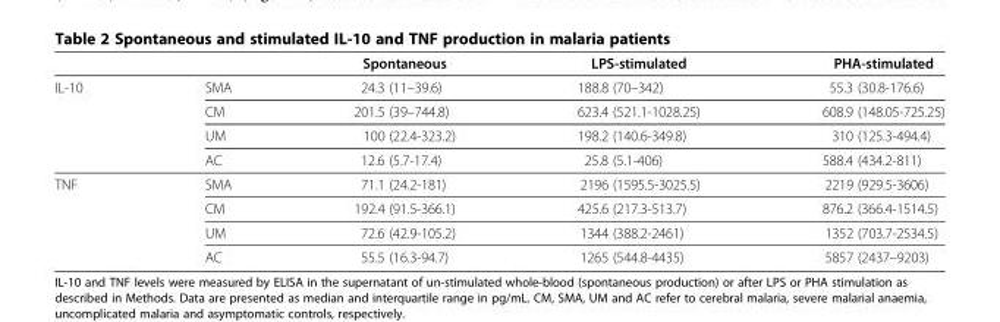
<table><thead><tr><td></td><td></td><td>Spontaneous</td><td>LPS-stimulated</td><td>PHA-stimulated</td></tr></thead><tbody><tr><td rowspan="4">IL-10</td><td>SMA</td><td>24.3 (11–39.6)</td><td>188.8 (70–342)</td><td>55.3 (30.8-176.6)</td></tr><tr><td>CM</td><td>201.5 (39–744.8)</td><td>623.4 (521.1-1028.25)</td><td>608.9 (148.05-725.25)</td></tr><tr><td>UM</td><td>100 (22.4-323.2)</td><td>198.2 (140.6-349.8)</td><td>310 (125.3-494.4)</td></tr><tr><td>AC</td><td>12.6 (5.7-17.4)</td><td>25.8 (5.1-406)</td><td>588.4 (434.2-811)</td></tr><tr><td rowspan="4">TNF</td><td>SMA</td><td>71.1 (24.2-181)</td><td>2196 (1595.5-3025.5)</td><td>2219 (929.5-3606)</td></tr><tr><td>CM</td><td>192.4 (91.5-366.1)</td><td>425.6 (217.3-513.7)</td><td>876.2 (366.4-1514.5)</td></tr><tr><td>UM</td><td>72.6 (42.9-105.2)</td><td>1344 (388.2-2461)</td><td>1352 (703.7-2534.5)</td></tr><tr><td>AC</td><td>55.5 (16.3-94.7)</td><td>1265 (544.8-4435)</td><td>5857 (2437–9203)</td></tr></tbody></table>